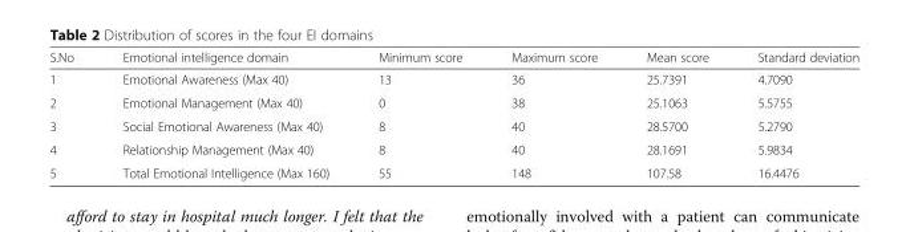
<table><thead><tr><td>S.No</td><td>Emotional intelligence domain</td><td>Minimum score</td><td>Maximum score</td><td>Mean score</td><td>Standard deviation</td></tr></thead><tbody><tr><td>1</td><td>Emotional Awareness (Max 40)</td><td>13</td><td>36</td><td>25.7391</td><td>4.7090</td></tr><tr><td>2</td><td>Emotional Management (Max 40)</td><td>0</td><td>38</td><td>25.1063</td><td>5.5755</td></tr><tr><td>3</td><td>Social Emotional Awareness (Max 40)</td><td>8</td><td>40</td><td>28.5700</td><td>5.2790</td></tr><tr><td>4</td><td>Relationship Management (Max 40)</td><td>8</td><td>40</td><td>28.1691</td><td>5.9834</td></tr><tr><td>5</td><td>Total Emotional Intelligence (Max 160)</td><td>55</td><td>148</td><td>107.58</td><td>16.4476</td></tr></tbody></table>